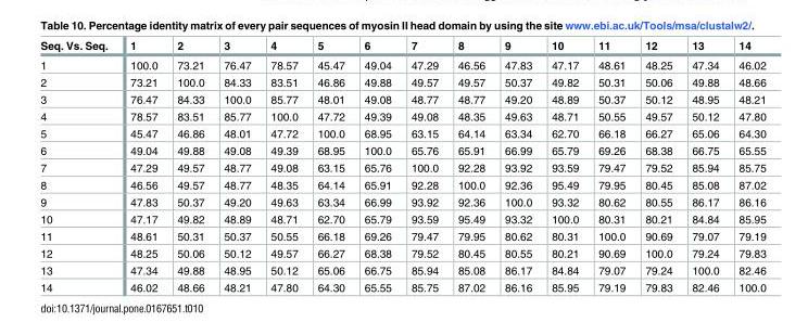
<table><tbody><tr><td>Seq. Vs. Seq.</td><td>1</td><td>2</td><td>3</td><td>4</td><td>5</td><td>6</td><td>7</td><td>8</td><td>9</td><td>10</td><td>11</td><td>12</td><td>13</td><td>14</td></tr><tr><td>1</td><td>100.0</td><td>73.21</td><td>76.47</td><td>78.57</td><td>45.47</td><td>49.04</td><td>47.29</td><td>46.56</td><td>47.83</td><td>47.17</td><td>48.61</td><td>48.25</td><td>47.34</td><td>46.02</td></tr><tr><td>2</td><td>73.21</td><td>100.0</td><td>84.33</td><td>83.51</td><td>46.86</td><td>49.88</td><td>49.57</td><td>49.57</td><td>50.37</td><td>49.82</td><td>50.31</td><td>50.06</td><td>49.88</td><td>48.66</td></tr><tr><td>3</td><td>76.47</td><td>84.33</td><td>100.0</td><td>85.77</td><td>48.01</td><td>49.08</td><td>48.77</td><td>48.77</td><td>49.20</td><td>48.89</td><td>50.37</td><td>50.12</td><td>48.95</td><td>48.21</td></tr><tr><td>4</td><td>78.57</td><td>83.51</td><td>85.77</td><td>100.0</td><td>47.72</td><td>49.39</td><td>49.08</td><td>48.35</td><td>49.63</td><td>48.71</td><td>50.55</td><td>49.57</td><td>50.12</td><td>47.80</td></tr><tr><td>5</td><td>45.47</td><td>46.86</td><td>48.01</td><td>47.72</td><td>100.0</td><td>68.95</td><td>63.15</td><td>64.14</td><td>63.34</td><td>62.70</td><td>66.18</td><td>66.27</td><td>65.06</td><td>64.30</td></tr><tr><td>6</td><td>49.04</td><td>49.88</td><td>49.08</td><td>49.39</td><td>68.95</td><td>100.0</td><td>65.76</td><td>65.91</td><td>66.99</td><td>65.79</td><td>69.26</td><td>68.38</td><td>66.75</td><td>65.55</td></tr><tr><td>7</td><td>47.29</td><td>49.57</td><td>48.77</td><td>49.08</td><td>63.15</td><td>65.76</td><td>100.0</td><td>92.28</td><td>93.92</td><td>93.59</td><td>79.47</td><td>79.52</td><td>85.94</td><td>85.75</td></tr><tr><td>8</td><td>46.56</td><td>49.57</td><td>48.77</td><td>48.35</td><td>64.14</td><td>65.91</td><td>92.28</td><td>100.0</td><td>92.36</td><td>95.49</td><td>79.95</td><td>80.45</td><td>85.08</td><td>87.02</td></tr><tr><td>9</td><td>47.83</td><td>50.37</td><td>49.20</td><td>49.63</td><td>63.34</td><td>66.99</td><td>93.92</td><td>92.36</td><td>100.0</td><td>93.32</td><td>80.62</td><td>80.55</td><td>86.17</td><td>86.16</td></tr><tr><td>10</td><td>47.17</td><td>49.82</td><td>48.89</td><td>48.71</td><td>62.70</td><td>65.79</td><td>93.59</td><td>95.49</td><td>93.32</td><td>100.0</td><td>80.31</td><td>80.21</td><td>84.84</td><td>85.95</td></tr><tr><td>11</td><td>48.61</td><td>50.31</td><td>50.37</td><td>50.55</td><td>66.18</td><td>69.26</td><td>79.47</td><td>79.95</td><td>80.62</td><td>80.31</td><td>100.0</td><td>90.69</td><td>79.07</td><td>79.19</td></tr><tr><td>12</td><td>48.25</td><td>50.06</td><td>50.12</td><td>49.57</td><td>66.27</td><td>68.38</td><td>79.52</td><td>80.45</td><td>80.55</td><td>80.21</td><td>90.69</td><td>100.0</td><td>79.24</td><td>79.83</td></tr><tr><td>13</td><td>47.34</td><td>49.88</td><td>48.95</td><td>50.12</td><td>65.06</td><td>66.75</td><td>85.94</td><td>85.08</td><td>86.17</td><td>84.84</td><td>79.07</td><td>79.24</td><td>100.0</td><td>82.46</td></tr><tr><td>14</td><td>46.02</td><td>48.66</td><td>48.21</td><td>47.80</td><td>64.30</td><td>65.55</td><td>85.75</td><td>87.02</td><td>86.16</td><td>85.95</td><td>79.19</td><td>79.83</td><td>82.46</td><td>100.0</td></tr></tbody></table>